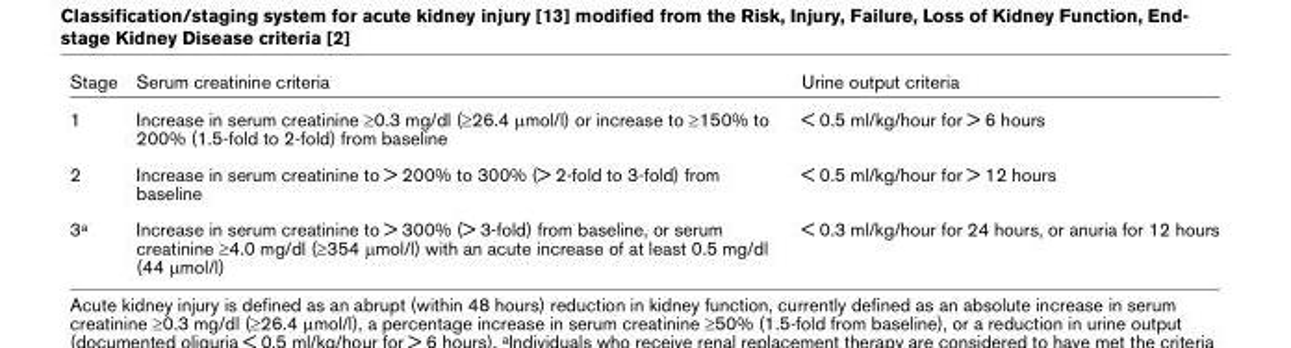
<table><thead><tr><td>Stage</td><td>Serum creatinine criteria</td><td>Urine output criteria</td></tr></thead><tbody><tr><td>1</td><td>Increase in serum creatinine ≥0.3 mg/dl (≥26.4 μmol/l) or increase to ≥150% to 200% (1.5-fold to 2-fold) from baseline</td><td>&lt; 0.5 ml/kg/hour for &gt; 6 hours</td></tr><tr><td>2</td><td>Increase in serum creatinine to &gt; 200% to 300% (&gt; 2-fold to 3-fold) from baseline</td><td>&lt; 0.5 ml/kg/hour for &gt; 12 hours</td></tr><tr><td>3<sup>a</sup></td><td>Increase in serum creatinine to &gt; 300% (&gt; 3-fold) from baseline, or serum creatinine ≥4.0 mg/dl (≥354 μmol/l) with an acute increase of at least 0.5 mg/dl (44 μmol/l)</td><td>&lt; 0.3 ml/kg/hour for 24 hours, or anuria for 12 hours</td></tr></tbody></table>